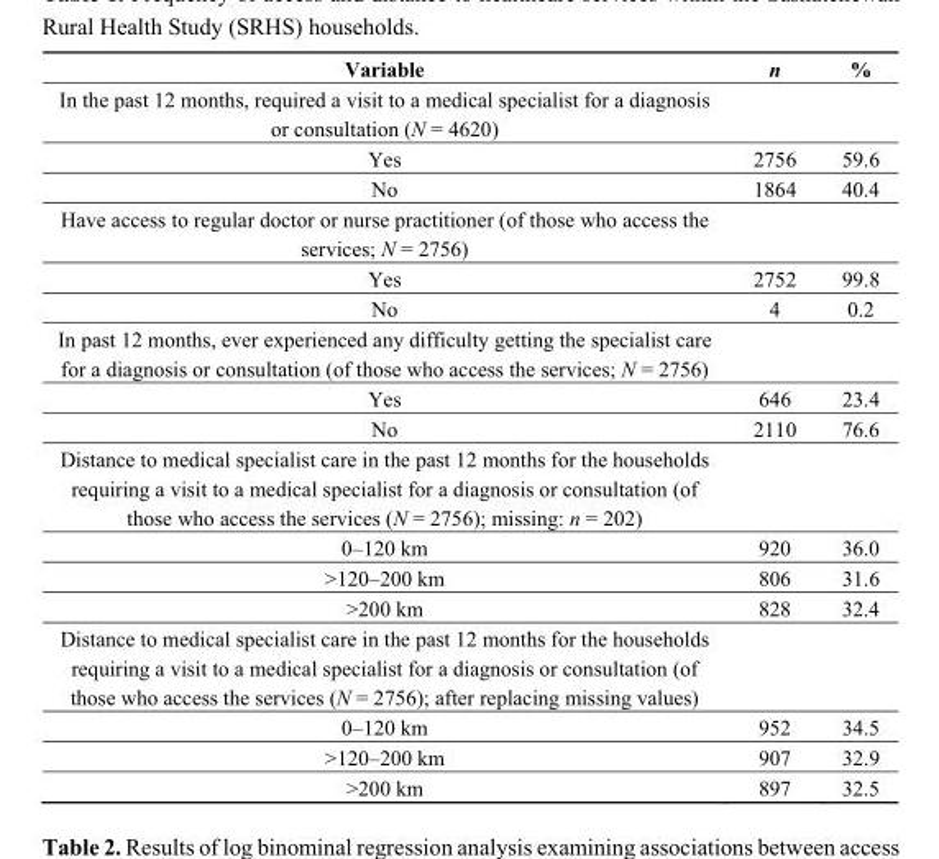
<table><thead><tr><td>Variable</td><td>n</td><td>%</td></tr></thead><tbody><tr><td colspan="3">In the past 12 months, required a visit to a medical specialist for a diagnosis or consultation (N = 4620)</td></tr><tr><td>Yes</td><td>2756</td><td>59.6</td></tr><tr><td>No</td><td>1864</td><td>40.4</td></tr><tr><td colspan="3">Have access to regular doctor or nurse practitioner (of those who access the services; N = 2756)</td></tr><tr><td>Yes</td><td>2752</td><td>99.8</td></tr><tr><td>No</td><td>4</td><td>0.2</td></tr><tr><td colspan="3">In past 12 months, ever experienced any difficulty getting the specialist care for a diagnosis or consultation (of those who access the services; N = 2756)</td></tr><tr><td>Yes</td><td>646</td><td>23.4</td></tr><tr><td>No</td><td>2110</td><td>76.6</td></tr><tr><td colspan="3">Distance to medical specialist care in the past 12 months for the households requiring a visit to a medical specialist for a diagnosis or consultation (of those who access the services (N = 2756); missing: n = 202)</td></tr><tr><td>0–120 km</td><td>920</td><td>36.0</td></tr><tr><td>&gt;120–200 km</td><td>806</td><td>31.6</td></tr><tr><td>&gt;200 km</td><td>828</td><td>32.4</td></tr><tr><td colspan="3">Distance to medical specialist care in the past 12 months for the households requiring a visit to a medical specialist for a diagnosis or consultation (of those who access the services (N = 2756); after replacing missing values)</td></tr><tr><td>0–120 km</td><td>952</td><td>34.5</td></tr><tr><td>&gt;120–200 km</td><td>907</td><td>32.9</td></tr><tr><td>&gt;200 km</td><td>897</td><td>32.5</td></tr></tbody></table>